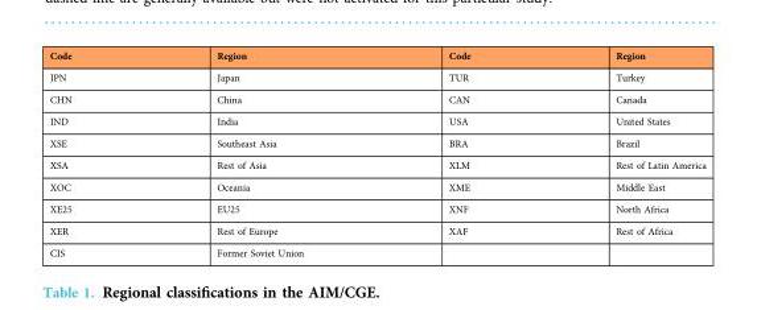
<table><thead><tr><td>Code</td><td>Region</td><td>Code</td><td>Region</td></tr></thead><tbody><tr><td>JPN</td><td>Japan</td><td>TUR</td><td>Turkey</td></tr><tr><td>CHN</td><td>China</td><td>CAN</td><td>Canada</td></tr><tr><td>IND</td><td>India</td><td>USA</td><td>United States</td></tr><tr><td>XSE</td><td>Southeast Asia</td><td>BRA</td><td>Brazil</td></tr><tr><td>XSA</td><td>Rest of Asia</td><td>XLM</td><td>Rest of Latin America</td></tr><tr><td>XOC</td><td>Oceania</td><td>XME</td><td>Middle East</td></tr><tr><td>XE25</td><td>EU25</td><td>XNF</td><td>North Africa</td></tr><tr><td>XER</td><td>Rest of Europe</td><td>XAF</td><td>Rest of Africa</td></tr><tr><td>CIS</td><td>Former Soviet Union</td><td></td><td></td></tr></tbody></table>